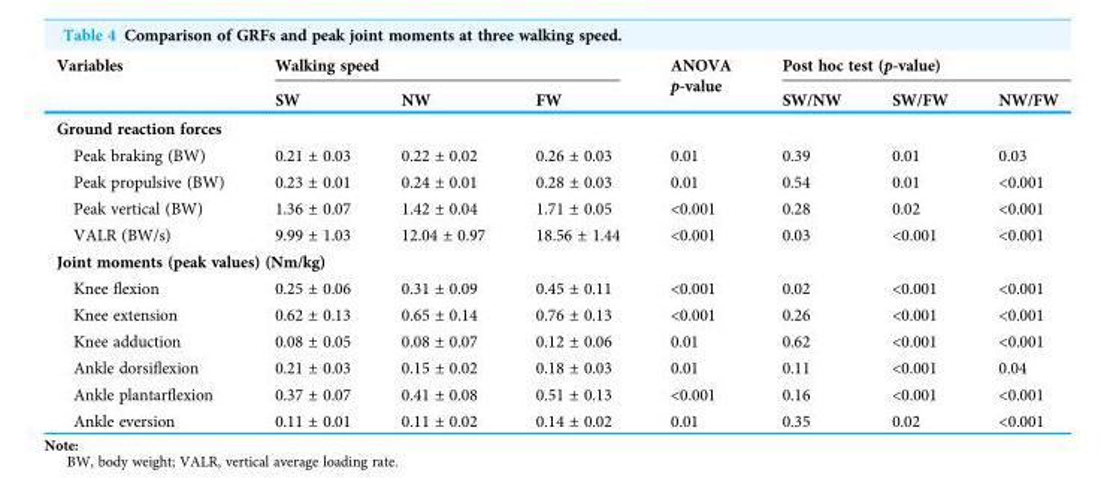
<table><thead><tr><td rowspan="2">Variables</td><td colspan="3">Walking speed</td><td rowspan="2">ANOVA p-value</td><td colspan="3">Post hoc test (p-value)</td></tr><tr><td>SW</td><td>NW</td><td>FW</td><td>SW/NW</td><td>SW/FW</td><td>NW/FW</td></tr></thead><tbody><tr><td colspan="8">Ground reaction forces</td></tr><tr><td>Peak braking (BW)</td><td>0.21 ± 0.03</td><td>0.22 ± 0.02</td><td>0.26 ± 0.03</td><td>0.01</td><td>0.39</td><td>0.01</td><td>0.03</td></tr><tr><td>Peak propulsive (BW)</td><td>0.23 ± 0.01</td><td>0.24 ± 0.01</td><td>0.28 ± 0.03</td><td>0.01</td><td>0.54</td><td>0.01</td><td>&lt;0.001</td></tr><tr><td>Peak vertical (BW)</td><td>1.36 ± 0.07</td><td>1.42 ± 0.04</td><td>1.71 ± 0.05</td><td>&lt;0.001</td><td>0.28</td><td>0.02</td><td>&lt;0.001</td></tr><tr><td>VALR (BW/s)</td><td>9.99 ± 1.03</td><td>12.04 ± 0.97</td><td>18.56 ± 1.44</td><td>&lt;0.001</td><td>0.03</td><td>&lt;0.001</td><td>&lt;0.001</td></tr><tr><td colspan="8">Joint moments (peak values) (Nm/kg)</td></tr><tr><td>Knee flexion</td><td>0.25 ± 0.06</td><td>0.31 ± 0.09</td><td>0.45 ± 0.11</td><td>&lt;0.001</td><td>0.02</td><td>&lt;0.001</td><td>&lt;0.001</td></tr><tr><td>Knee extension</td><td>0.62 ± 0.13</td><td>0.65 ± 0.14</td><td>0.76 ± 0.13</td><td>&lt;0.001</td><td>0.26</td><td>&lt;0.001</td><td>&lt;0.001</td></tr><tr><td>Knee adduction</td><td>0.08 ± 0.05</td><td>0.08 ± 0.07</td><td>0.12 ± 0.06</td><td>0.01</td><td>0.62</td><td>&lt;0.001</td><td>&lt;0.001</td></tr><tr><td>Ankle dorsiflexion</td><td>0.21 ± 0.03</td><td>0.15 ± 0.02</td><td>0.18 ± 0.03</td><td>0.01</td><td>0.11</td><td>&lt;0.001</td><td>0.04</td></tr><tr><td>Ankle plantarflexion</td><td>0.37 ± 0.07</td><td>0.41 ± 0.08</td><td>0.51 ± 0.13</td><td>&lt;0.001</td><td>0.16</td><td>&lt;0.001</td><td>&lt;0.001</td></tr><tr><td>Ankle eversion</td><td>0.11 ± 0.01</td><td>0.11 ± 0.02</td><td>0.14 ± 0.02</td><td>0.01</td><td>0.35</td><td>0.02</td><td>&lt;0.001</td></tr></tbody></table>